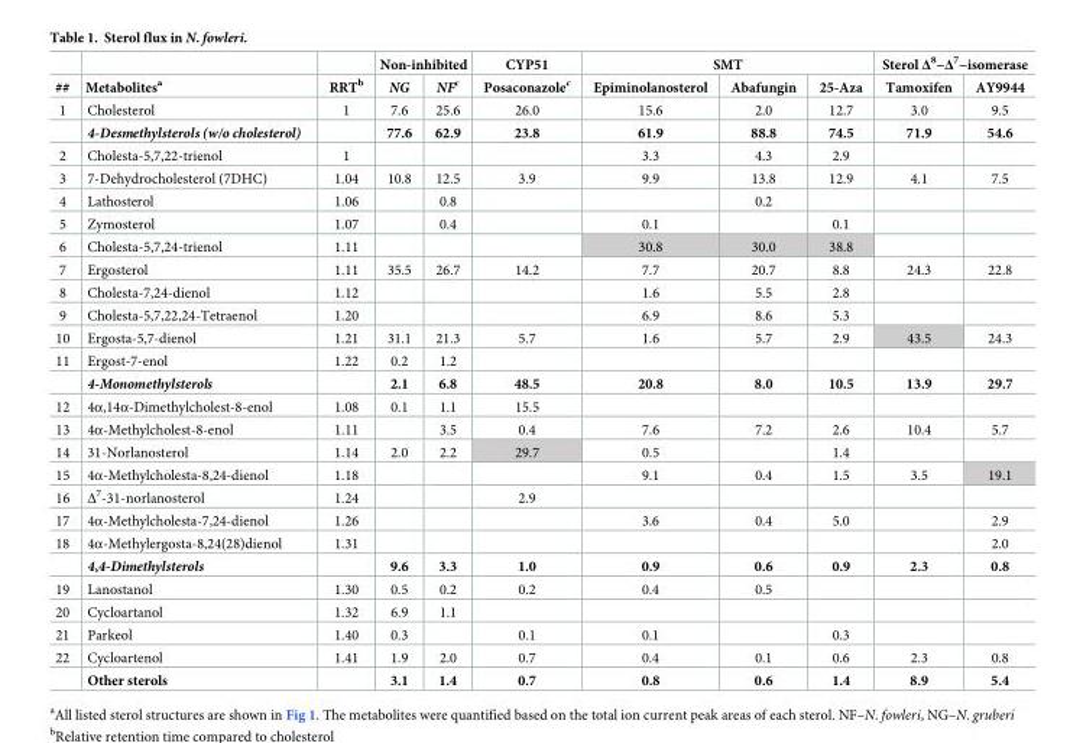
<table><thead><tr><td rowspan="2">##</td><td rowspan="2">Metabolites<sup>a</sup></td><td rowspan="2">RRT<sup>b</sup></td><td colspan="2">Non-inhibited</td><td rowspan="2">CYP51 Posaconazole<sup>c</sup></td><td colspan="3">SMT</td><td colspan="2">Sterol Δ<sup>8</sup>−Δ<sup>7</sup>−isomerase</td></tr><tr><td>NG</td><td>NF<sup>c</sup></td><td>Epiminolanosterol</td><td>Abafungin</td><td>25-Aza</td><td>Tamoxifen</td><td>AY9944</td></tr></thead><tbody><tr><td rowspan="2">1</td><td>Cholesterol</td><td>1</td><td>7.6</td><td>25.6</td><td>26.0</td><td>15.6</td><td>2.0</td><td>12.7</td><td>3.0</td><td>9.5</td></tr><tr><td>4-Desmethylsterols (w/o cholesterol)</td><td></td><td>77.6</td><td>62.9</td><td>23.8</td><td>61.9</td><td>88.8</td><td>74.5</td><td>71.9</td><td>54.6</td></tr><tr><td>2</td><td>Cholesta-5,7,22-trienol</td><td>1</td><td></td><td></td><td></td><td>3.3</td><td>4.3</td><td>2.9</td><td></td><td></td></tr><tr><td>3</td><td>7-Dehydrocholesterol (7DHC)</td><td>1.04</td><td>10.8</td><td>12.5</td><td>3.9</td><td>9.9</td><td>13.8</td><td>12.9</td><td>4.1</td><td>7.5</td></tr><tr><td>4</td><td>Lathosterol</td><td>1.06</td><td></td><td>0.8</td><td></td><td></td><td>0.2</td><td></td><td></td><td></td></tr><tr><td>5</td><td>Zymosterol</td><td>1.07</td><td></td><td>0.4</td><td></td><td>0.1</td><td></td><td>0.1</td><td></td><td></td></tr><tr><td>6</td><td>Cholesta-5,7,24-trienol</td><td>1.11</td><td></td><td></td><td></td><td>30.8</td><td>30.0</td><td>38.8</td><td></td><td></td></tr><tr><td>7</td><td>Ergosterol</td><td>1.11</td><td>35.5</td><td>26.7</td><td>14.2</td><td>7.7</td><td>20.7</td><td>8.8</td><td>24.3</td><td>22.8</td></tr><tr><td>8</td><td>Cholesta-7,24-dienol</td><td>1.12</td><td></td><td></td><td></td><td>1.6</td><td>5.5</td><td>2.8</td><td></td><td></td></tr><tr><td>9</td><td>Cholesta-5,7,22,24-Tetraenol</td><td>1.20</td><td></td><td></td><td></td><td>6.9</td><td>8.6</td><td>5.3</td><td></td><td></td></tr><tr><td>10</td><td>Ergosta-5,7-dienol</td><td>1.21</td><td>31.1</td><td>21.3</td><td>5.7</td><td>1.6</td><td>5.7</td><td>2.9</td><td>43.5</td><td>24.3</td></tr><tr><td rowspan="2">11</td><td>Ergost-7-enol</td><td>1.22</td><td>0.2</td><td>1.2</td><td></td><td></td><td></td><td></td><td></td><td></td></tr><tr><td>4-Monomethylsterols</td><td></td><td>2.1</td><td>6.8</td><td>48.5</td><td>20.8</td><td>8.0</td><td>10.5</td><td>13.9</td><td>29.7</td></tr><tr><td>12</td><td>4α,14α-Dimethylcholest-8-enol</td><td>1.08</td><td>0.1</td><td>1.1</td><td>15.5</td><td></td><td></td><td></td><td></td><td></td></tr><tr><td>13</td><td>4α-Methylcholest-8-enol</td><td>1.11</td><td></td><td>3.5</td><td>0.4</td><td>7.6</td><td>7.2</td><td>2.6</td><td>10.4</td><td>5.7</td></tr><tr><td>14</td><td>31-Norlanosterol</td><td>1.14</td><td>2.0</td><td>2.2</td><td>29.7</td><td>0.5</td><td></td><td>1.4</td><td></td><td></td></tr><tr><td>15</td><td>4α-Methylcholesta-8,24-dienol</td><td>1.18</td><td></td><td></td><td></td><td>9.1</td><td>0.4</td><td>1.5</td><td>3.5</td><td>19.1</td></tr><tr><td>16</td><td>Δ<sup>7</sup>-31-norlanosterol</td><td>1.24</td><td></td><td></td><td>2.9</td><td></td><td></td><td></td><td></td><td></td></tr><tr><td>17</td><td>4α-Methylcholesta-7,24-dienol</td><td>1.26</td><td></td><td></td><td></td><td>3.6</td><td>0.4</td><td>5.0</td><td></td><td>2.9</td></tr><tr><td rowspan="2">18</td><td>4α-Methylergosta-8,24(28)dienol</td><td>1.31</td><td></td><td></td><td></td><td></td><td></td><td></td><td></td><td>2.0</td></tr><tr><td>4,4-Dimethylsterols</td><td></td><td>9.6</td><td>3.3</td><td>1.0</td><td>0.9</td><td>0.6</td><td>0.9</td><td>2.3</td><td>0.8</td></tr><tr><td>19</td><td>Lanostanol</td><td>1.30</td><td>0.5</td><td>0.2</td><td>0.2</td><td>0.4</td><td>0.5</td><td></td><td></td><td></td></tr><tr><td>20</td><td>Cycloartanol</td><td>1.32</td><td>6.9</td><td>1.1</td><td></td><td></td><td></td><td></td><td></td><td></td></tr><tr><td>21</td><td>Parkeol</td><td>1.40</td><td>0.3</td><td></td><td>0.1</td><td>0.1</td><td></td><td>0.3</td><td></td><td></td></tr><tr><td rowspan="2">22</td><td>Cycloartenol</td><td>1.41</td><td>1.9</td><td>2.0</td><td>0.7</td><td>0.4</td><td>0.1</td><td>0.6</td><td>2.3</td><td>0.8</td></tr><tr><td>Other sterols</td><td></td><td>3.1</td><td>1.4</td><td>0.7</td><td>0.8</td><td>0.6</td><td>1.4</td><td>8.9</td><td>5.4</td></tr></tbody></table>